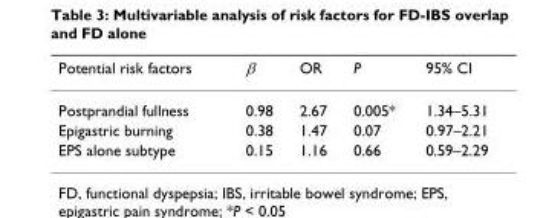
<table><thead><tr><td>Potential risk factors</td><td>β</td><td>OR</td><td>P</td><td>95% CI</td></tr></thead><tbody><tr><td>Postprandial fullness</td><td>0.98</td><td>2.67</td><td>0.005*</td><td>1.34–5.31</td></tr><tr><td>Epigastric burning</td><td>0.38</td><td>1.47</td><td>0.07</td><td>0.97–2.21</td></tr><tr><td>EPS alone subtype</td><td>0.15</td><td>1.16</td><td>0.66</td><td>0.59–2.29</td></tr></tbody></table>